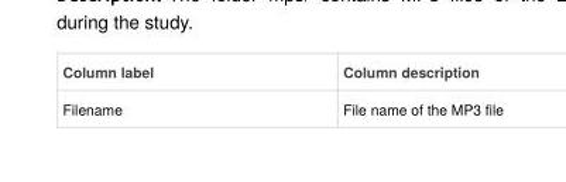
<table><thead><tr><td>Column label</td><td>Column description</td></tr></thead><tbody><tr><td>Filename</td><td>File name of the MP3 file</td></tr></tbody></table>